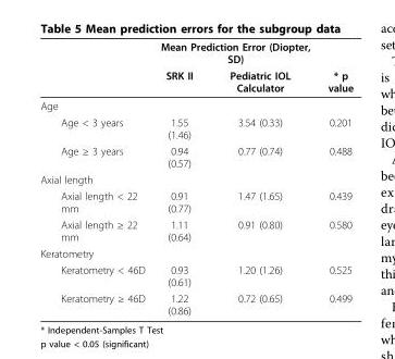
<table><thead><tr><td rowspan="2"></td><td colspan="2">Mean Prediction Error (Diopter, SD)</td><td rowspan="2">* p value</td></tr><tr><td>SRK II</td><td>Pediatric IOL Calculator</td></tr></thead><tbody><tr><td colspan="4">Age</td></tr><tr><td>Age &lt; 3 years</td><td>1.55 (1.46)</td><td>3.54 (0.33)</td><td>0.201</td></tr><tr><td>Age ≥ 3 years</td><td>0.94 (0.57)</td><td>0.77 (0.74)</td><td>0.488</td></tr><tr><td colspan="4">Axial length</td></tr><tr><td>Axial length &lt; 22 mm</td><td>0.91 (0.77)</td><td>1.47 (1.65)</td><td>0.439</td></tr><tr><td>Axial length ≥ 22 mm</td><td>1.11 (0.64)</td><td>0.91 (0.80)</td><td>0.580</td></tr><tr><td colspan="4">Keratometry</td></tr><tr><td>Keratometry &lt; 46D</td><td>0.93 (0.61)</td><td>1.20 (1.26)</td><td>0.525</td></tr><tr><td>Keratometry ≥ 46D</td><td>1.22 (0.86)</td><td>0.72 (0.65)</td><td>0.499</td></tr></tbody></table>